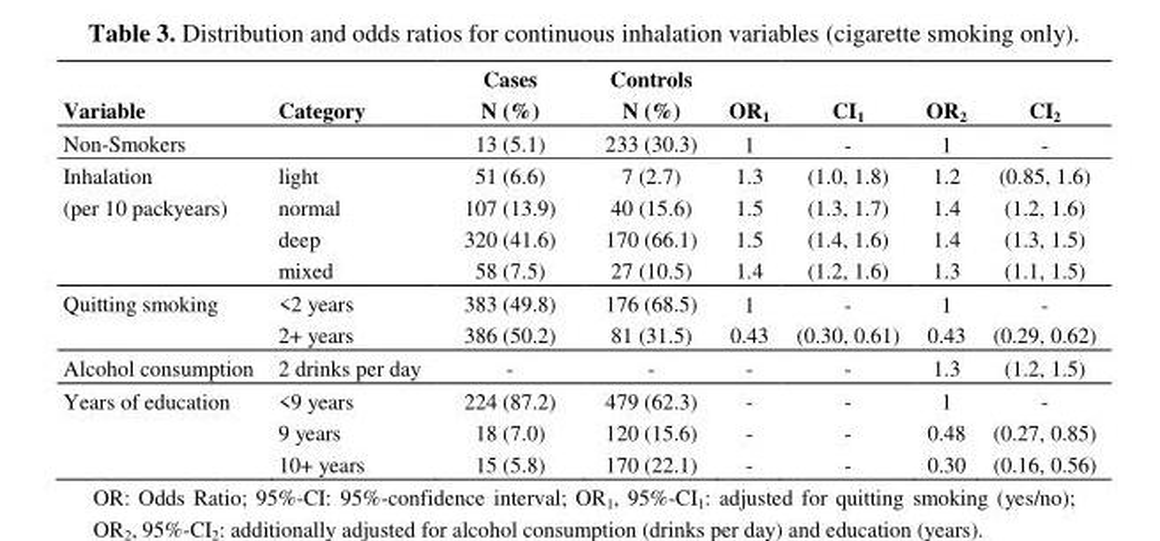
<table><thead><tr><td>Variable</td><td>Category</td><td>Cases N (%)</td><td>Controls N (%)</td><td>OR<sub>1</sub></td><td>CI<sub>1</sub></td><td>OR<sub>2</sub></td><td>CI<sub>2</sub></td></tr></thead><tbody><tr><td>Non-Smokers</td><td></td><td>13 (5.1)</td><td>233 (30.3)</td><td>1</td><td>-</td><td>1</td><td>-</td></tr><tr><td rowspan="4">Inhalation (per 10 packyears)</td><td>light</td><td>51 (6.6)</td><td>7 (2.7)</td><td>1.3</td><td>(1.0, 1.8)</td><td>1.2</td><td>(0.85, 1.6)</td></tr><tr><td>normal</td><td>107 (13.9)</td><td>40 (15.6)</td><td>1.5</td><td>(1.3, 1.7)</td><td>1.4</td><td>(1.2, 1.6)</td></tr><tr><td>deep</td><td>320 (41.6)</td><td>170 (66.1)</td><td>1.5</td><td>(1.4, 1.6)</td><td>1.4</td><td>(1.3, 1.5)</td></tr><tr><td>mixed</td><td>58 (7.5)</td><td>27 (10.5)</td><td>1.4</td><td>(1.2, 1.6)</td><td>1.3</td><td>(1.1, 1.5)</td></tr><tr><td rowspan="2">Quitting smoking</td><td>&lt;2 years</td><td>383 (49.8)</td><td>176 (68.5)</td><td>1</td><td>-</td><td>1</td><td>-</td></tr><tr><td>2+ years</td><td>386 (50.2)</td><td>81 (31.5)</td><td>0.43</td><td>(0.30, 0.61)</td><td>0.43</td><td>(0.29, 0.62)</td></tr><tr><td>Alcohol consumption</td><td>2 drinks per day</td><td>-</td><td>-</td><td>-</td><td>-</td><td>1.3</td><td>(1.2, 1.5)</td></tr><tr><td rowspan="3">Years of education</td><td>&lt;9 years</td><td>224 (87.2)</td><td>479 (62.3)</td><td>-</td><td>-</td><td>1</td><td>-</td></tr><tr><td>9 years</td><td>18 (7.0)</td><td>120 (15.6)</td><td>-</td><td>-</td><td>0.48</td><td>(0.27, 0.85)</td></tr><tr><td>10+ years</td><td>15 (5.8)</td><td>170 (22.1)</td><td>-</td><td>-</td><td>0.30</td><td>(0.16, 0.56)</td></tr></tbody></table>